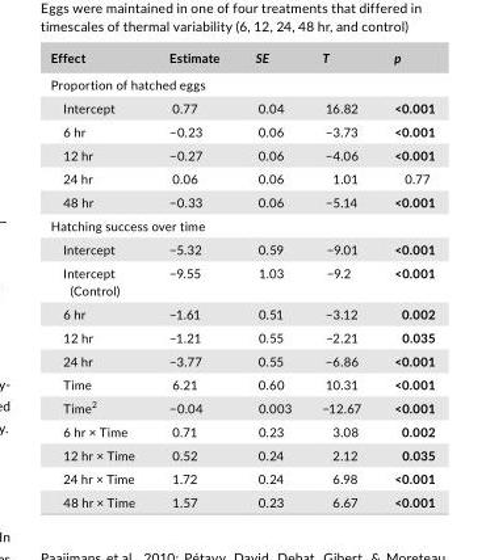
<table><thead><tr><td>Effect</td><td>Estimate</td><td>SE</td><td>T</td><td>p</td></tr></thead><tbody><tr><td colspan="5">Proportion of hatched eggs</td></tr><tr><td>Intercept</td><td>0.77</td><td>0.04</td><td>16.82</td><td>&lt;0.001</td></tr><tr><td>6 hr</td><td>−0.23</td><td>0.06</td><td>−3.73</td><td>&lt;0.001</td></tr><tr><td>12 hr</td><td>−0.27</td><td>0.06</td><td>−4.06</td><td>&lt;0.001</td></tr><tr><td>24 hr</td><td>0.06</td><td>0.06</td><td>1.01</td><td>0.77</td></tr><tr><td>48 hr</td><td>−0.33</td><td>0.06</td><td>−5.14</td><td>&lt;0.001</td></tr><tr><td colspan="5">Hatching success over time</td></tr><tr><td>Intercept</td><td>−5.32</td><td>0.59</td><td>−9.01</td><td>&lt;0.001</td></tr><tr><td>Intercept (Control)</td><td>−9.55</td><td>1.03</td><td>−9.2</td><td>&lt;0.001</td></tr><tr><td>6 hr</td><td>−1.61</td><td>0.51</td><td>−3.12</td><td>0.002</td></tr><tr><td>12 hr</td><td>−1.21</td><td>0.55</td><td>−2.21</td><td>0.035</td></tr><tr><td>24 hr</td><td>−3.77</td><td>0.55</td><td>−6.86</td><td>&lt;0.001</td></tr><tr><td>Time</td><td>6.21</td><td>0.60</td><td>10.31</td><td>&lt;0.001</td></tr><tr><td>Time<sup>2</sup></td><td>−0.04</td><td>0.003</td><td>−12.67</td><td>&lt;0.001</td></tr><tr><td>6 hr × Time</td><td>0.71</td><td>0.23</td><td>3.08</td><td>0.002</td></tr><tr><td>12 hr × Time</td><td>0.52</td><td>0.24</td><td>2.12</td><td>0.035</td></tr><tr><td>24 hr × Time</td><td>1.72</td><td>0.24</td><td>6.98</td><td>&lt;0.001</td></tr><tr><td>48 hr × Time</td><td>1.57</td><td>0.23</td><td>6.67</td><td>&lt;0.001</td></tr></tbody></table>